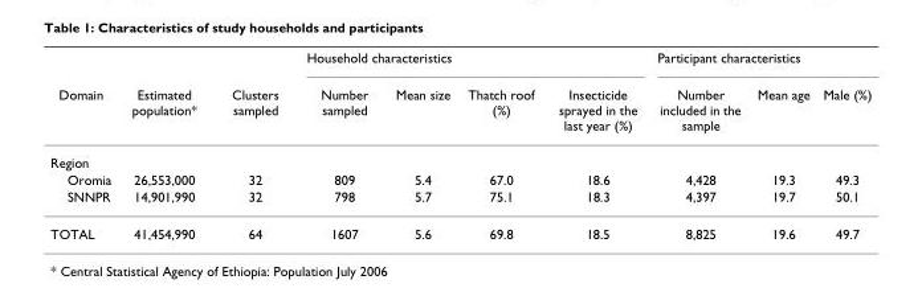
<table><thead><tr><td rowspan="2">Domain</td><td rowspan="2">Estimated population*</td><td rowspan="2">Clusters sampled</td><td colspan="4">Household characteristics</td><td colspan="3">Participant characteristics</td></tr><tr><td>Number sampled</td><td>Mean size</td><td>Thatch roof (%)</td><td>Insecticide sprayed in the last year (%)</td><td>Number included in the sample</td><td>Mean age</td><td>Male (%)</td></tr></thead><tbody><tr><td colspan="10">Region</td></tr><tr><td>Oromia</td><td>26,553,000</td><td>32</td><td>809</td><td>5.4</td><td>67.0</td><td>18.6</td><td>4,428</td><td>19.3</td><td>49.3</td></tr><tr><td>SNNPR</td><td>14,901,990</td><td>32</td><td>798</td><td>5.7</td><td>75.1</td><td>18.3</td><td>4,397</td><td>19.7</td><td>50.1</td></tr><tr><td>TOTAL</td><td>41,454,990</td><td>64</td><td>1607</td><td>5.6</td><td>69.8</td><td>18.5</td><td>8,825</td><td>19.6</td><td>49.7</td></tr></tbody></table>